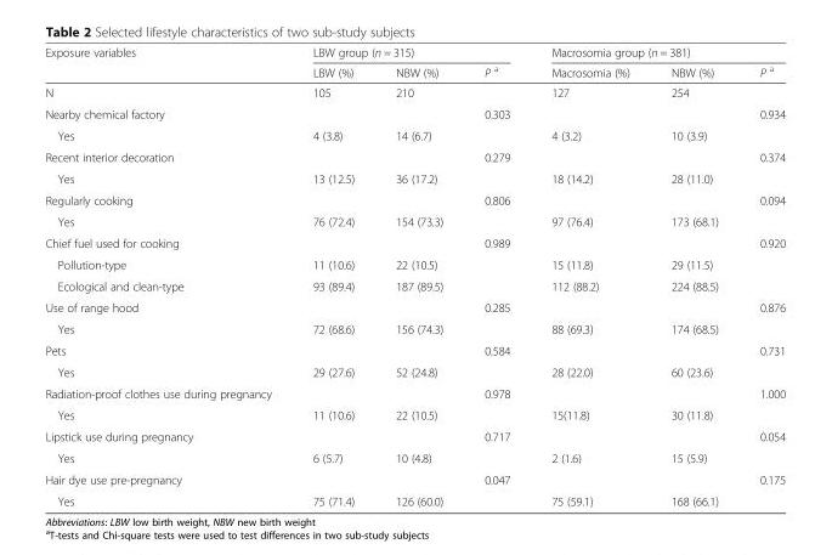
<table><thead><tr><td rowspan="2">Exposure variables</td><td colspan="3">LBW group (n = 315)</td><td colspan="3">Macrosomia group (n = 381)</td></tr><tr><td>LBW (%)</td><td>NBW (%)</td><td>P <sup>a</sup></td><td>Macrosomia (%)</td><td>NBW (%)</td><td>P <sup>a</sup></td></tr></thead><tbody><tr><td>N</td><td>105</td><td>210</td><td></td><td>127</td><td>254</td><td></td></tr><tr><td>Nearby chemical factory</td><td></td><td></td><td>0.303</td><td></td><td></td><td>0.934</td></tr><tr><td>Yes</td><td>4 (3.8)</td><td>14 (6.7)</td><td></td><td>4 (3.2)</td><td>10 (3.9)</td><td></td></tr><tr><td>Recent interior decoration</td><td></td><td></td><td>0.279</td><td></td><td></td><td>0.374</td></tr><tr><td>Yes</td><td>13 (12.5)</td><td>36 (17.2)</td><td></td><td>18 (14.2)</td><td>28 (11.0)</td><td></td></tr><tr><td>Regularly cooking</td><td></td><td></td><td>0.806</td><td></td><td></td><td>0.094</td></tr><tr><td>Yes</td><td>76 (72.4)</td><td>154 (73.3)</td><td></td><td>97 (76.4)</td><td>173 (68.1)</td><td></td></tr><tr><td>Chief fuel used for cooking</td><td></td><td></td><td>0.989</td><td></td><td></td><td>0.920</td></tr><tr><td>Pollution-type</td><td>11 (10.6)</td><td>22 (10.5)</td><td></td><td>15 (11.8)</td><td>29 (11.5)</td><td></td></tr><tr><td>Ecological and clean-type</td><td>93 (89.4)</td><td>187 (89.5)</td><td></td><td>112 (88.2)</td><td>224 (88.5)</td><td></td></tr><tr><td>Use of range hood</td><td></td><td></td><td>0.285</td><td></td><td></td><td>0.876</td></tr><tr><td>Yes</td><td>72 (68.6)</td><td>156 (74.3)</td><td></td><td>88 (69.3)</td><td>174 (68.5)</td><td></td></tr><tr><td>Pets</td><td></td><td></td><td>0.584</td><td></td><td></td><td>0.731</td></tr><tr><td>Yes</td><td>29 (27.6)</td><td>52 (24.8)</td><td></td><td>28 (22.0)</td><td>60 (23.6)</td><td></td></tr><tr><td>Radiation-proof clothes use during pregnancy</td><td></td><td></td><td>0.978</td><td></td><td></td><td>1.000</td></tr><tr><td>Yes</td><td>11 (10.6)</td><td>22 (10.5)</td><td></td><td>15(11.8)</td><td>30 (11.8)</td><td></td></tr><tr><td>Lipstick use during pregnancy</td><td></td><td></td><td>0.717</td><td></td><td></td><td>0.054</td></tr><tr><td>Yes</td><td>6 (5.7)</td><td>10 (4.8)</td><td></td><td>2 (1.6)</td><td>15 (5.9)</td><td></td></tr><tr><td>Hair dye use pre-pregnancy</td><td></td><td></td><td>0.047</td><td></td><td></td><td>0.175</td></tr><tr><td>Yes</td><td>75 (71.4)</td><td>126 (60.0)</td><td></td><td>75 (59.1)</td><td>168 (66.1)</td><td></td></tr></tbody></table>